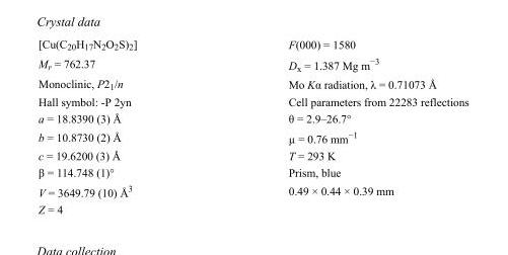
<table><tbody><tr><td>[Cu(C<sub>20</sub>H<sub>17</sub>N<sub>2</sub>O<sub>2</sub>S)<sub>2</sub>]</td><td>F(000) = 1580</td></tr><tr><td>M<sub>r</sub> = 762.37</td><td>D<sub>x</sub> = 1.387 Mg m<sup>−3</sup></td></tr><tr><td>Monoclinic, P2<sub>1</sub>/n</td><td>Mo Kα radiation, λ = 0.71073 Å</td></tr><tr><td>Hall symbol: -P 2yn</td><td>Cell parameters from 22283 reflections</td></tr><tr><td>a = 18.8390 (3) Å</td><td>θ = 2.9–26.7°</td></tr><tr><td>b = 10.8730 (2) Å</td><td>µ = 0.76 mm<sup>−1</sup></td></tr><tr><td>c = 19.6200 (3) Å</td><td>T = 293 K</td></tr><tr><td>β = 114.748 (1)°</td><td>Prism, blue</td></tr><tr><td>V = 3649.79 (10) Å<sup>3</sup></td><td>0.49 × 0.44 × 0.39 mm</td></tr><tr><td>Z = 4</td><td></td></tr></tbody></table>